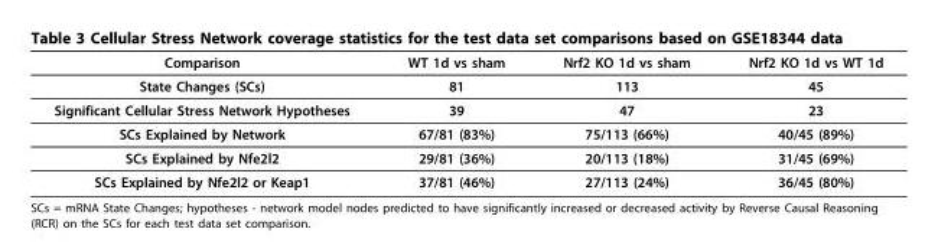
<table><thead><tr><td>Comparison</td><td>WT 1d vs sham</td><td>Nrf2 KO 1d vs sham</td><td>Nrf2 KO 1d vs WT 1d</td></tr></thead><tbody><tr><td>State Changes (SCs)</td><td>81</td><td>113</td><td>45</td></tr><tr><td>Significant Cellular Stress Network Hypotheses</td><td>39</td><td>47</td><td>23</td></tr><tr><td>SCs Explained by Network</td><td>67/81 (83%)</td><td>75/113 (66%)</td><td>40/45 (89%)</td></tr><tr><td>SCs Explained by Nfe2l2</td><td>29/81 (36%)</td><td>20/113 (18%)</td><td>31/45 (69%)</td></tr><tr><td>SCs Explained by Nfe2l2 or Keap1</td><td>37/81 (46%)</td><td>27/113 (24%)</td><td>36/45 (80%)</td></tr></tbody></table>